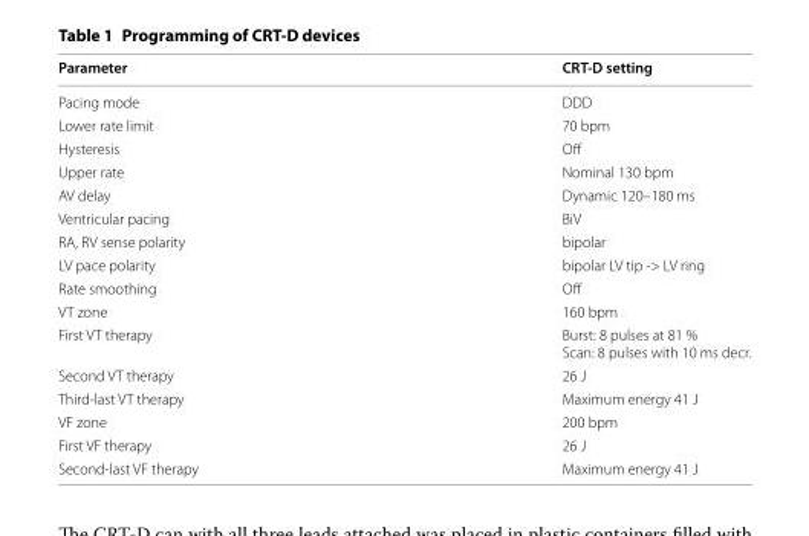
<table><thead><tr><td>Parameter</td><td>CRT-D setting</td></tr></thead><tbody><tr><td>Pacing mode</td><td>DDD</td></tr><tr><td>Lower rate limit</td><td>70 bpm</td></tr><tr><td>Hysteresis</td><td>Off</td></tr><tr><td>Upper rate</td><td>Nominal 130 bpm</td></tr><tr><td>AV delay</td><td>Dynamic 120–180 ms</td></tr><tr><td>Ventricular pacing</td><td>BiV</td></tr><tr><td>RA, RV sense polarity</td><td>bipolar</td></tr><tr><td>LV pace polarity</td><td>bipolar LV tip -&gt; LV ring</td></tr><tr><td>Rate smoothing</td><td>Off</td></tr><tr><td>VT zone</td><td>160 bpm</td></tr><tr><td>First VT therapy</td><td>Burst: 8 pulses at 81 % Scan: 8 pulses with 10 ms decr.</td></tr><tr><td>Second VT therapy</td><td>26 J</td></tr><tr><td>Third-last VT therapy</td><td>Maximum energy 41 J</td></tr><tr><td>VF zone</td><td>200 bpm</td></tr><tr><td>First VF therapy</td><td>26 J</td></tr><tr><td>Second-last VF therapy</td><td>Maximum energy 41 J</td></tr></tbody></table>